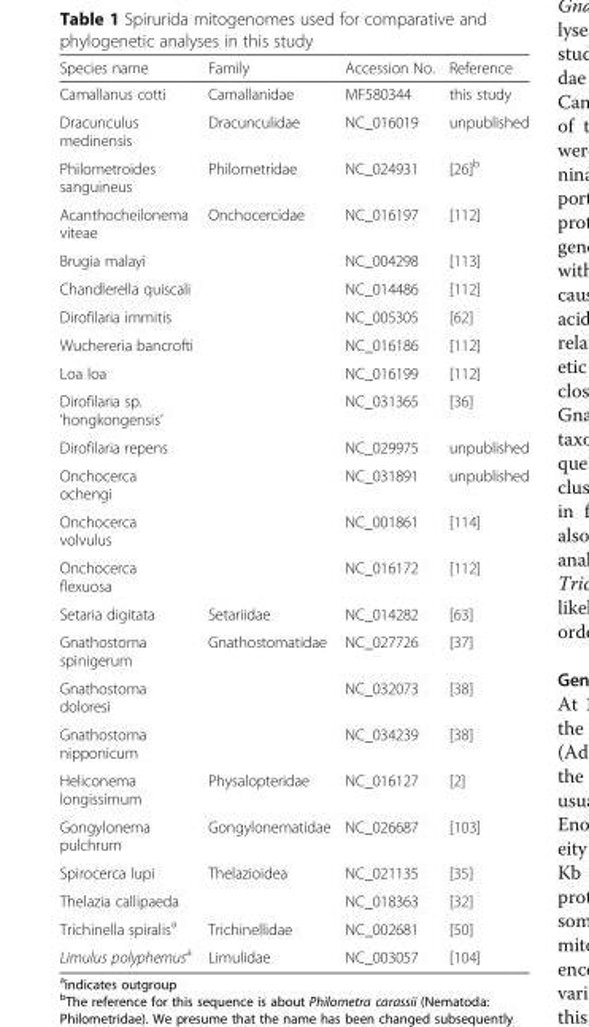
<table><thead><tr><td>Species name</td><td>Family</td><td>Accession No.</td><td>Reference</td></tr></thead><tbody><tr><td>Camallanus cotti</td><td>Camallanidae</td><td>MF580344</td><td>this study</td></tr><tr><td>Dracunculus medinensis</td><td>Dracunculidae</td><td>NC_016019</td><td>unpublished</td></tr><tr><td>Philometroides sanguineus</td><td>Philometridae</td><td>NC_024931</td><td>[26]<sup>b</sup></td></tr><tr><td>Acanthocheilonema viteae</td><td>Onchocercidae</td><td>NC_016197</td><td>[112]</td></tr><tr><td>Brugia malayi</td><td></td><td>NC_004298</td><td>[113]</td></tr><tr><td>Chandlerella quiscali</td><td></td><td>NC_014486</td><td>[112]</td></tr><tr><td>Dirofilaria immitis</td><td></td><td>NC_005305</td><td>[62]</td></tr><tr><td>Wuchereria bancrofti</td><td></td><td>NC_016186</td><td>[112]</td></tr><tr><td>Loa loa</td><td></td><td>NC_016199</td><td>[112]</td></tr><tr><td>Dirofilaria sp. ‘hongkongensis’</td><td></td><td>NC_031365</td><td>[36]</td></tr><tr><td>Dirofilaria repens</td><td></td><td>NC_029975</td><td>unpublished</td></tr><tr><td>Onchocerca ochengi</td><td></td><td>NC_031891</td><td>unpublished</td></tr><tr><td>Onchocerca volvulus</td><td></td><td>NC_001861</td><td>[114]</td></tr><tr><td>Onchocerca flexuosa</td><td></td><td>NC_016172</td><td>[112]</td></tr><tr><td>Setaria digitata</td><td>Setariidae</td><td>NC_014282</td><td>[63]</td></tr><tr><td>Gnathostoma spinigerum</td><td>Gnathostomatidae</td><td>NC_027726</td><td>[37]</td></tr><tr><td>Gnathostoma doloresi</td><td></td><td>NC_032073</td><td>[38]</td></tr><tr><td>Gnathostoma nipponicum</td><td></td><td>NC_034239</td><td>[38]</td></tr><tr><td>Heliconema longissimum</td><td>Physalopteridae</td><td>NC_016127</td><td>[2]</td></tr><tr><td>Gongylonema pulchrum</td><td>Gongylonematidae</td><td>NC_026687</td><td>[103]</td></tr><tr><td>Spirocerca lupi</td><td>Thelazioidea</td><td>NC_021135</td><td>[35]</td></tr><tr><td>Thelazia callipaeda</td><td></td><td>NC_018363</td><td>[32]</td></tr><tr><td>Trichinella spiralis<sup>a</sup></td><td>Trichinellidae</td><td>NC_002681</td><td>[50]</td></tr><tr><td>Limulus polyphemus<sup>a</sup></td><td>Limulidae</td><td>NC_003057</td><td>[104]</td></tr></tbody></table>